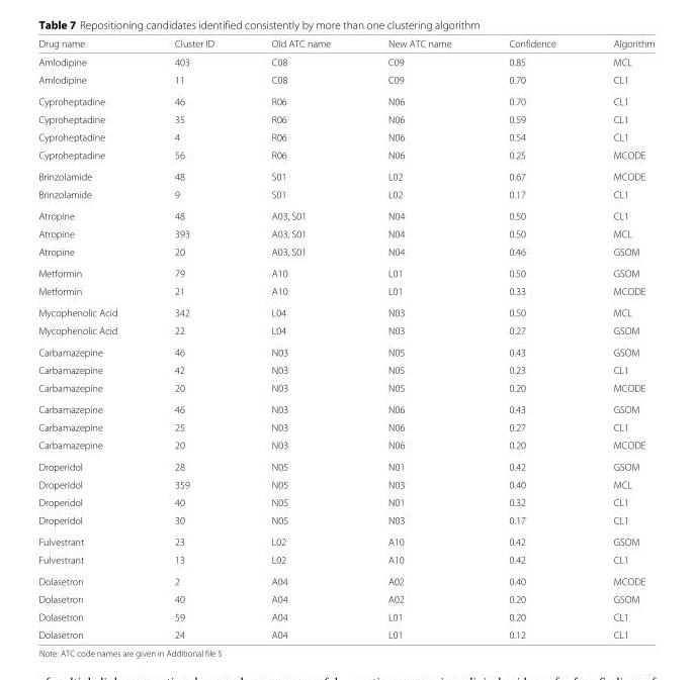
<table><thead><tr><td>Drug name</td><td>Cluster ID</td><td>Old ATC name</td><td>New ATC name</td><td>Confidence</td><td>Algorithm</td></tr></thead><tbody><tr><td>Amlodipine</td><td>403</td><td>C08</td><td>C09</td><td>0.85</td><td>MCL</td></tr><tr><td>Amlodipine</td><td>11</td><td>C08</td><td>C09</td><td>0.70</td><td>CL1</td></tr><tr><td>Cyproheptadine</td><td>46</td><td>R06</td><td>N06</td><td>0.70</td><td>CL1</td></tr><tr><td>Cyproheptadine</td><td>35</td><td>R06</td><td>N06</td><td>0.59</td><td>CL1</td></tr><tr><td>Cyproheptadine</td><td>4</td><td>R06</td><td>N06</td><td>0.54</td><td>CL1</td></tr><tr><td>Cyproheptadine</td><td>56</td><td>R06</td><td>N06</td><td>0.25</td><td>MCODE</td></tr><tr><td>Brinzolamide</td><td>48</td><td>S01</td><td>L02</td><td>0.67</td><td>MCODE</td></tr><tr><td>Brinzolamide</td><td>9</td><td>S01</td><td>L02</td><td>0.17</td><td>CL1</td></tr><tr><td>Atropine</td><td>48</td><td>A03, S01</td><td>N04</td><td>0.50</td><td>CL1</td></tr><tr><td>Atropine</td><td>393</td><td>A03, S01</td><td>N04</td><td>0.50</td><td>MCL</td></tr><tr><td>Atropine</td><td>20</td><td>A03, S01</td><td>N04</td><td>0.46</td><td>GSOM</td></tr><tr><td>Metformin</td><td>79</td><td>A10</td><td>L01</td><td>0.50</td><td>GSOM</td></tr><tr><td>Metformin</td><td>21</td><td>A10</td><td>L01</td><td>0.33</td><td>MCODE</td></tr><tr><td>Mycophenolic Acid</td><td>342</td><td>L04</td><td>N03</td><td>0.50</td><td>MCL</td></tr><tr><td>Mycophenolic Acid</td><td>22</td><td>L04</td><td>N03</td><td>0.27</td><td>GSOM</td></tr><tr><td>Carbamazepine</td><td>46</td><td>N03</td><td>N05</td><td>0.43</td><td>GSOM</td></tr><tr><td>Carbamazepine</td><td>42</td><td>N03</td><td>N05</td><td>0.23</td><td>CL1</td></tr><tr><td>Carbamazepine</td><td>20</td><td>N03</td><td>N05</td><td>0.20</td><td>MCODE</td></tr><tr><td>Carbamazepine</td><td>46</td><td>N03</td><td>N06</td><td>0.43</td><td>GSOM</td></tr><tr><td>Carbamazepine</td><td>25</td><td>N03</td><td>N06</td><td>0.27</td><td>CL1</td></tr><tr><td>Carbamazepine</td><td>20</td><td>N03</td><td>N06</td><td>0.20</td><td>MCODE</td></tr><tr><td>Droperidol</td><td>28</td><td>N05</td><td>N01</td><td>0.42</td><td>GSOM</td></tr><tr><td>Droperidol</td><td>359</td><td>N05</td><td>N03</td><td>0.40</td><td>MCL</td></tr><tr><td>Droperidol</td><td>40</td><td>N05</td><td>N01</td><td>0.32</td><td>CL1</td></tr><tr><td>Droperidol</td><td>30</td><td>N05</td><td>N03</td><td>0.17</td><td>CL1</td></tr><tr><td>Fulvestrant</td><td>23</td><td>L02</td><td>A10</td><td>0.42</td><td>GSOM</td></tr><tr><td>Fulvestrant</td><td>13</td><td>L02</td><td>A10</td><td>0.42</td><td>CL1</td></tr><tr><td>Dolasetron</td><td>2</td><td>A04</td><td>A02</td><td>0.40</td><td>MCODE</td></tr><tr><td>Dolasetron</td><td>40</td><td>A04</td><td>A02</td><td>0.20</td><td>GSOM</td></tr><tr><td>Dolasetron</td><td>59</td><td>A04</td><td>L01</td><td>0.20</td><td>CL1</td></tr><tr><td>Dolasetron</td><td>24</td><td>A04</td><td>L01</td><td>0.12</td><td>CL1</td></tr></tbody></table>